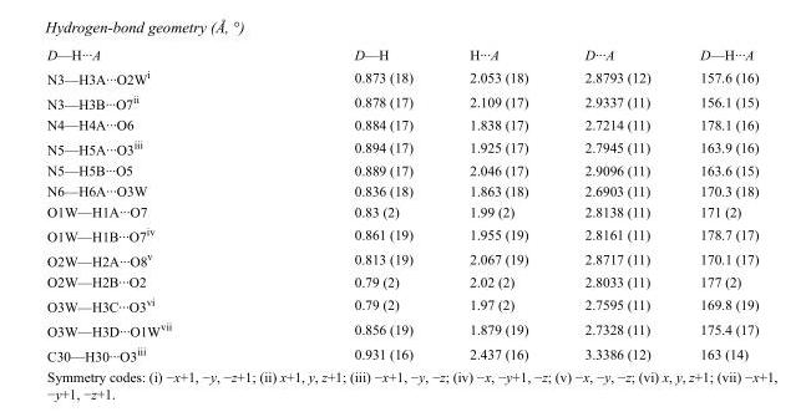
<table><tbody><tr><td>D—H···A</td><td>D—H</td><td>H···A</td><td>D···A</td><td>D—H···A</td></tr><tr><td>N3—H3A···O2W<sup>i</sup></td><td>0.873 (18)</td><td>2.053 (18)</td><td>2.8793 (12)</td><td>157.6 (16)</td></tr><tr><td>N3—H3B···O7<sup>ii</sup></td><td>0.878 (17)</td><td>2.109 (17)</td><td>2.9337 (11)</td><td>156.1 (15)</td></tr><tr><td>N4—H4A···O6</td><td>0.884 (17)</td><td>1.838 (17)</td><td>2.7214 (11)</td><td>178.1 (16)</td></tr><tr><td>N5—H5A···O3<sup>iii</sup></td><td>0.894 (17)</td><td>1.925 (17)</td><td>2.7945 (11)</td><td>163.9 (16)</td></tr><tr><td>N5—H5B···O5</td><td>0.889 (17)</td><td>2.046 (17)</td><td>2.9096 (11)</td><td>163.6 (15)</td></tr><tr><td>N6—H6A···O3W</td><td>0.836 (18)</td><td>1.863 (18)</td><td>2.6903 (11)</td><td>170.3 (18)</td></tr><tr><td>O1W—H1A···O7</td><td>0.83 (2)</td><td>1.99 (2)</td><td>2.8138 (11)</td><td>171 (2)</td></tr><tr><td>O1W—H1B···O7<sup>iv</sup></td><td>0.861 (19)</td><td>1.955 (19)</td><td>2.8161 (11)</td><td>178.7 (17)</td></tr><tr><td>O2W—H2A···O8<sup>v</sup></td><td>0.813 (19)</td><td>2.067 (19)</td><td>2.8717 (11)</td><td>170.1 (17)</td></tr><tr><td>O2W—H2B···O2</td><td>0.79 (2)</td><td>2.02 (2)</td><td>2.8033 (11)</td><td>177 (2)</td></tr><tr><td>O3W—H3C···O3<sup>vi</sup></td><td>0.79 (2)</td><td>1.97 (2)</td><td>2.7595 (11)</td><td>169.8 (19)</td></tr><tr><td>O3W—H3D···O1W<sup>vii</sup></td><td>0.856 (19)</td><td>1.879 (19)</td><td>2.7328 (11)</td><td>175.4 (17)</td></tr><tr><td>C30—H30···O3<sup>iii</sup></td><td>0.931 (16)</td><td>2.437 (16)</td><td>3.3386 (12)</td><td>163 (14)</td></tr></tbody></table>